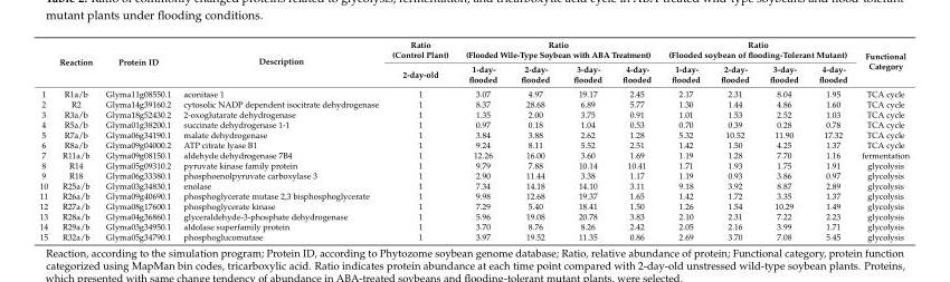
<table><thead><tr><td rowspan="2"></td><td rowspan="2">Reaction</td><td rowspan="2">Protein ID</td><td rowspan="2">Description</td><td rowspan="2">Ratio (Control Plant) 2-day-old</td><td colspan="4">Ratio (Flooded Wile-Type Soybean with ABA Treatment)</td><td colspan="4">Ratio (Flooded soybean of flooding-Tolerant Mutant)</td><td rowspan="2">Functional Category</td></tr><tr><td>1-day- flooded</td><td>2-day- flooded</td><td>3-day- flooded</td><td>4-day- flooded</td><td>1-day- flooded</td><td>2-day- flooded</td><td>3-day- flooded</td><td>4-day- flooded</td></tr></thead><tbody><tr><td>1</td><td>R1a/b</td><td>Glyma11g08550.1</td><td>aconitase 1</td><td>1</td><td>3.07</td><td>4.97</td><td>19.17</td><td>2.45</td><td>2.17</td><td>2.31</td><td>8.04</td><td>1.95</td><td>TCA cycle</td></tr><tr><td>2</td><td>R2</td><td>Glyma14g39160.2</td><td>cytosolic NADP dependent isocitrate dehydrogenase</td><td>1</td><td>8.37</td><td>28.68</td><td>6.89</td><td>5.77</td><td>1.30</td><td>1.44</td><td>4.86</td><td>1.60</td><td>TCA cycle</td></tr><tr><td>3</td><td>R3a/b</td><td>Glyma18g52430.2</td><td>2-oxoglutarate dehydrogenase</td><td>1</td><td>1.35</td><td>2.00</td><td>3.75</td><td>0.91</td><td>1.01</td><td>1.53</td><td>2.52</td><td>1.03</td><td>TCA cycle</td></tr><tr><td>4</td><td>R5a/b</td><td>Glyma01g38200.1</td><td>succinate dehydrogenase 1-1</td><td>1</td><td>0.97</td><td>0.18</td><td>1.04</td><td>0.53</td><td>0.70</td><td>0.39</td><td>0.28</td><td>0.78</td><td>TCA cycle</td></tr><tr><td>5</td><td>R7a/b</td><td>Glyma06g34190.1</td><td>malate dehydrogenase</td><td>1</td><td>3.84</td><td>3.88</td><td>2.62</td><td>1.28</td><td>5.32</td><td>10.52</td><td>11.90</td><td>17.32</td><td>TCA cycle</td></tr><tr><td>6</td><td>R8a/b</td><td>Glyma09g04000.2</td><td>ATP citrate lyase B1</td><td>1</td><td>9.24</td><td>8.11</td><td>5.52</td><td>2.51</td><td>1.42</td><td>1.50</td><td>4.25</td><td>1.37</td><td>TCA cycle</td></tr><tr><td>7</td><td>R11a/b</td><td>Glyma09g08150.1</td><td>aldehyde dehydrogenase 7B4</td><td>1</td><td>12.26</td><td>16.00</td><td>3.60</td><td>1.69</td><td>1.19</td><td>1.28</td><td>7.70</td><td>1.16</td><td>fermentation</td></tr><tr><td>8</td><td>R14</td><td>Glyma05g09310.2</td><td>pyruvate kinase family protein</td><td>1</td><td>9.79</td><td>7.88</td><td>10.14</td><td>10.41</td><td>1.71</td><td>1.93</td><td>1.75</td><td>1.91</td><td>glycolysis</td></tr><tr><td>9</td><td>R18</td><td>Glyma06g33380.1</td><td>phosphoenolpyruvate carboxylase 3</td><td>1</td><td>2.90</td><td>11.44</td><td>3.38</td><td>1.17</td><td>1.19</td><td>0.93</td><td>3.86</td><td>0.97</td><td>glycolysis</td></tr><tr><td>10</td><td>R25a/b</td><td>Glyma03g34830.1</td><td>enolase</td><td>1</td><td>7.34</td><td>14.18</td><td>14.10</td><td>3.11</td><td>9.18</td><td>3.92</td><td>8.87</td><td>2.89</td><td>glycolysis</td></tr><tr><td>11</td><td>R26a/b</td><td>Glyma09g40690.1</td><td>phosphoglycerate mutase 2,3 bisphosphoglycerate</td><td>1</td><td>9.98</td><td>12.68</td><td>19.37</td><td>1.65</td><td>1.42</td><td>1.72</td><td>3.35</td><td>1.37</td><td>glycolysis</td></tr><tr><td>12</td><td>R27a/b</td><td>Glyma08g17600.1</td><td>phosphoglycerate kinase</td><td>1</td><td>7.29</td><td>5.40</td><td>18.41</td><td>1.50</td><td>1.26</td><td>1.54</td><td>10.29</td><td>1.49</td><td>glycolysis</td></tr><tr><td>13</td><td>R28a/b</td><td>Glyma04g36860.1</td><td>glyceraldehyde-3-phosphate dehydrogenase</td><td>1</td><td>5.96</td><td>19.08</td><td>20.78</td><td>3.83</td><td>2.10</td><td>2.31</td><td>7.22</td><td>2.23</td><td>glycolysis</td></tr><tr><td>14</td><td>R29a/b</td><td>Glyma03g34950.1</td><td>aldolase superfamily protein</td><td>1</td><td>3.70</td><td>8.76</td><td>8.26</td><td>2.42</td><td>2.05</td><td>2.16</td><td>3.99</td><td>1.71</td><td>glycolysis</td></tr><tr><td>15</td><td>R32a/b</td><td>Glyma05g34790.1</td><td>phosphoglucomutase</td><td>1</td><td>3.97</td><td>19.52</td><td>11.35</td><td>0.86</td><td>2.69</td><td>3.70</td><td>7.08</td><td>5.45</td><td>glycolysis</td></tr></tbody></table>